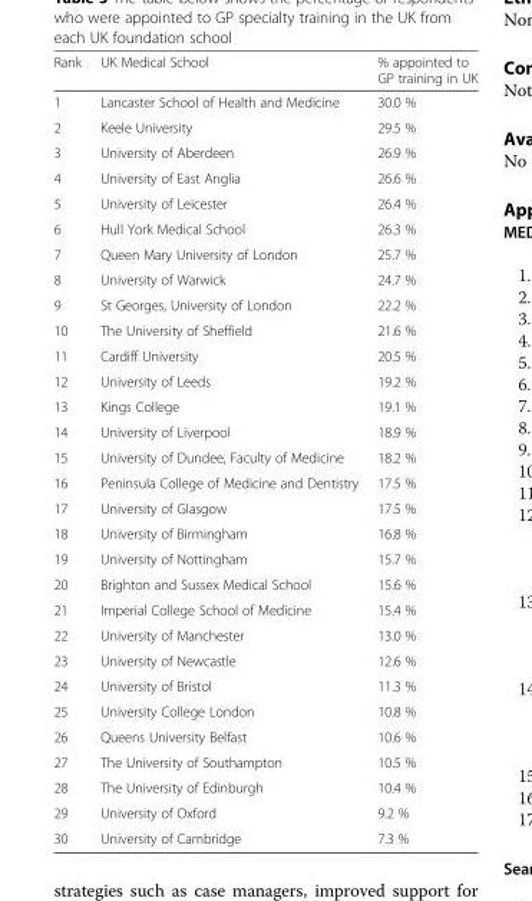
<table><thead><tr><td>Rank</td><td>UK Medical School</td><td>% appointed to GP training in UK</td></tr></thead><tbody><tr><td>1</td><td>Lancaster School of Health and Medicine</td><td>30.0 %</td></tr><tr><td>2</td><td>Keele University</td><td>29.5 %</td></tr><tr><td>3</td><td>University of Aberdeen</td><td>26.9 %</td></tr><tr><td>4</td><td>University of East Anglia</td><td>26.6 %</td></tr><tr><td>5</td><td>University of Leicester</td><td>26.4 %</td></tr><tr><td>6</td><td>Hull York Medical School</td><td>26.3 %</td></tr><tr><td>7</td><td>Queen Mary University of London</td><td>25.7 %</td></tr><tr><td>8</td><td>University of Warwick</td><td>24.7 %</td></tr><tr><td>9</td><td>St Georges, University of London</td><td>22.2 %</td></tr><tr><td>10</td><td>The University of Sheffield</td><td>21.6 %</td></tr><tr><td>11</td><td>Cardiff University</td><td>20.5 %</td></tr><tr><td>12</td><td>University of Leeds</td><td>19.2 %</td></tr><tr><td>13</td><td>Kings College</td><td>19.1 %</td></tr><tr><td>14</td><td>University of Liverpool</td><td>18.9 %</td></tr><tr><td>15</td><td>University of Dundee, Faculty of Medicine</td><td>18.2 %</td></tr><tr><td>16</td><td>Peninsula College of Medicine and Dentistry</td><td>17.5 %</td></tr><tr><td>17</td><td>University of Glasgow</td><td>17.5 %</td></tr><tr><td>18</td><td>University of Birmingham</td><td>16.8 %</td></tr><tr><td>19</td><td>University of Nottingham</td><td>15.7 %</td></tr><tr><td>20</td><td>Brighton and Sussex Medical School</td><td>15.6 %</td></tr><tr><td>21</td><td>Imperial College School of Medicine</td><td>15.4 %</td></tr><tr><td>22</td><td>University of Manchester</td><td>13.0 %</td></tr><tr><td>23</td><td>University of Newcastle</td><td>12.6 %</td></tr><tr><td>24</td><td>University of Bristol</td><td>11.3 %</td></tr><tr><td>25</td><td>University College London</td><td>10.8 %</td></tr><tr><td>26</td><td>Queens University Belfast</td><td>10.6 %</td></tr><tr><td>27</td><td>The University of Southampton</td><td>10.5 %</td></tr><tr><td>28</td><td>The University of Edinburgh</td><td>10.4 %</td></tr><tr><td>29</td><td>University of Oxford</td><td>9.2 %</td></tr><tr><td>30</td><td>University of Cambridge</td><td>7.3 %</td></tr></tbody></table>